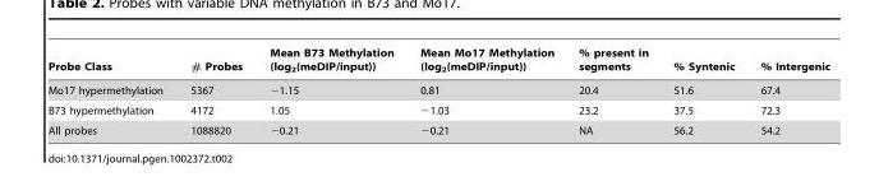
<table><thead><tr><td>Probe Class</td><td># Probes</td><td>Mean B73 Methylation (log<sub>2</sub>(meDIP/input))</td><td>Mean Mo17 Methylation (log<sub>2</sub>(meDIP/input))</td><td>% present in segments</td><td>% Syntenic</td><td>% Intergenic</td></tr></thead><tbody><tr><td>Mo17 hypermethylation</td><td>5367</td><td>−1.15</td><td>0.81</td><td>20.4</td><td>51.6</td><td>67.4</td></tr><tr><td>B73 hypermethylation</td><td>4172</td><td>1.05</td><td>−1.03</td><td>23.2</td><td>37.5</td><td>72.3</td></tr><tr><td>All probes</td><td>1088820</td><td>−0.21</td><td>−0.21</td><td>NA</td><td>56.2</td><td>54.2</td></tr></tbody></table>